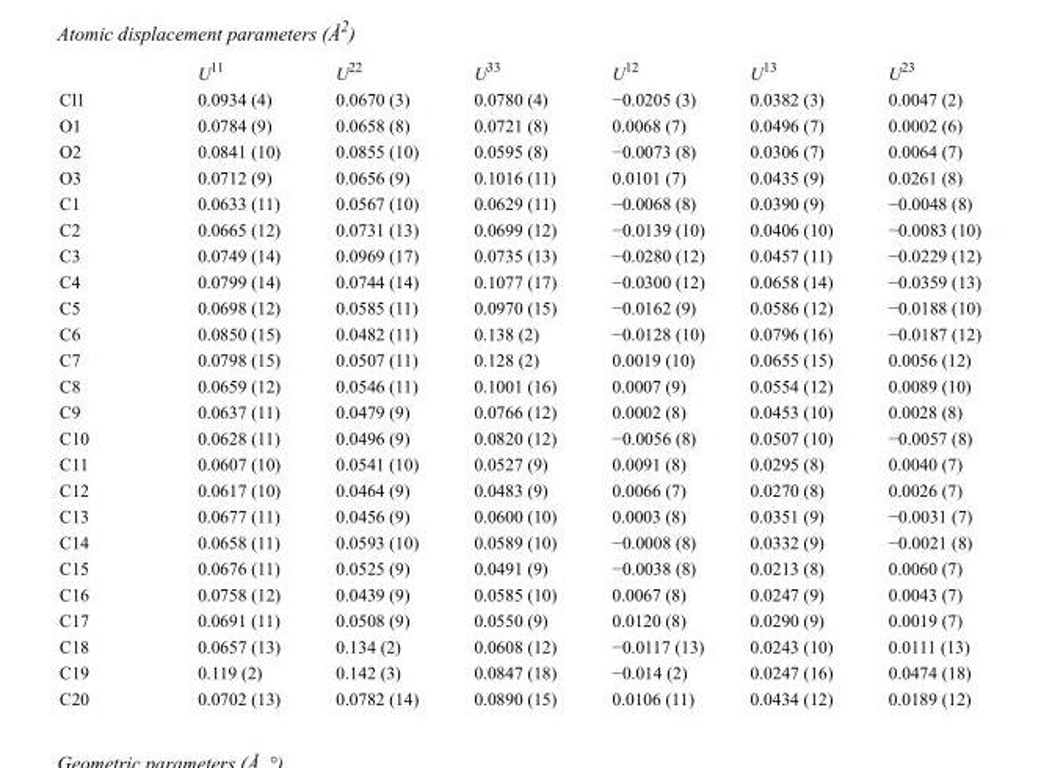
<table><thead><tr><td></td><td>U<sup>11</sup></td><td>U<sup>22</sup></td><td>U<sup>33</sup></td><td>U<sup>12</sup></td><td>U<sup>13</sup></td><td>U<sup>23</sup></td></tr></thead><tbody><tr><td>Cl1</td><td>0.0934 (4)</td><td>0.0670 (3)</td><td>0.0780 (4)</td><td>−0.0205 (3)</td><td>0.0382 (3)</td><td>0.0047 (2)</td></tr><tr><td>O1</td><td>0.0784 (9)</td><td>0.0658 (8)</td><td>0.0721 (8)</td><td>0.0068 (7)</td><td>0.0496 (7)</td><td>0.0002 (6)</td></tr><tr><td>O2</td><td>0.0841 (10)</td><td>0.0855 (10)</td><td>0.0595 (8)</td><td>−0.0073 (8)</td><td>0.0306 (7)</td><td>0.0064 (7)</td></tr><tr><td>O3</td><td>0.0712 (9)</td><td>0.0656 (9)</td><td>0.1016 (11)</td><td>0.0101 (7)</td><td>0.0435 (9)</td><td>0.0261 (8)</td></tr><tr><td>C1</td><td>0.0633 (11)</td><td>0.0567 (10)</td><td>0.0629 (11)</td><td>−0.0068 (8)</td><td>0.0390 (9)</td><td>−0.0048 (8)</td></tr><tr><td>C2</td><td>0.0665 (12)</td><td>0.0731 (13)</td><td>0.0699 (12)</td><td>−0.0139 (10)</td><td>0.0406 (10)</td><td>−0.0083 (10)</td></tr><tr><td>C3</td><td>0.0749 (14)</td><td>0.0969 (17)</td><td>0.0735 (13)</td><td>−0.0280 (12)</td><td>0.0457 (11)</td><td>−0.0229 (12)</td></tr><tr><td>C4</td><td>0.0799 (14)</td><td>0.0744 (14)</td><td>0.1077 (17)</td><td>−0.0300 (12)</td><td>0.0658 (14)</td><td>−0.0359 (13)</td></tr><tr><td>C5</td><td>0.0698 (12)</td><td>0.0585 (11)</td><td>0.0970 (15)</td><td>−0.0162 (9)</td><td>0.0586 (12)</td><td>−0.0188 (10)</td></tr><tr><td>C6</td><td>0.0850 (15)</td><td>0.0482 (11)</td><td>0.138 (2)</td><td>−0.0128 (10)</td><td>0.0796 (16)</td><td>−0.0187 (12)</td></tr><tr><td>C7</td><td>0.0798 (15)</td><td>0.0507 (11)</td><td>0.128 (2)</td><td>0.0019 (10)</td><td>0.0655 (15)</td><td>0.0056 (12)</td></tr><tr><td>C8</td><td>0.0659 (12)</td><td>0.0546 (11)</td><td>0.1001 (16)</td><td>0.0007 (9)</td><td>0.0554 (12)</td><td>0.0089 (10)</td></tr><tr><td>C9</td><td>0.0637 (11)</td><td>0.0479 (9)</td><td>0.0766 (12)</td><td>0.0002 (8)</td><td>0.0453 (10)</td><td>0.0028 (8)</td></tr><tr><td>C10</td><td>0.0628 (11)</td><td>0.0496 (9)</td><td>0.0820 (12)</td><td>−0.0056 (8)</td><td>0.0507 (10)</td><td>−0.0057 (8)</td></tr><tr><td>C11</td><td>0.0607 (10)</td><td>0.0541 (10)</td><td>0.0527 (9)</td><td>0.0091 (8)</td><td>0.0295 (8)</td><td>0.0040 (7)</td></tr><tr><td>C12</td><td>0.0617 (10)</td><td>0.0464 (9)</td><td>0.0483 (9)</td><td>0.0066 (7)</td><td>0.0270 (8)</td><td>0.0026 (7)</td></tr><tr><td>C13</td><td>0.0677 (11)</td><td>0.0456 (9)</td><td>0.0600 (10)</td><td>0.0003 (8)</td><td>0.0351 (9)</td><td>−0.0031 (7)</td></tr><tr><td>C14</td><td>0.0658 (11)</td><td>0.0593 (10)</td><td>0.0589 (10)</td><td>−0.0008 (8)</td><td>0.0332 (9)</td><td>−0.0021 (8)</td></tr><tr><td>C15</td><td>0.0676 (11)</td><td>0.0525 (9)</td><td>0.0491 (9)</td><td>−0.0038 (8)</td><td>0.0213 (8)</td><td>0.0060 (7)</td></tr><tr><td>C16</td><td>0.0758 (12)</td><td>0.0439 (9)</td><td>0.0585 (10)</td><td>0.0067 (8)</td><td>0.0247 (9)</td><td>0.0043 (7)</td></tr><tr><td>C17</td><td>0.0691 (11)</td><td>0.0508 (9)</td><td>0.0550 (9)</td><td>0.0120 (8)</td><td>0.0290 (9)</td><td>0.0019 (7)</td></tr><tr><td>C18</td><td>0.0657 (13)</td><td>0.134 (2)</td><td>0.0608 (12)</td><td>−0.0117 (13)</td><td>0.0243 (10)</td><td>0.0111 (13)</td></tr><tr><td>C19</td><td>0.119 (2)</td><td>0.142 (3)</td><td>0.0847 (18)</td><td>−0.014 (2)</td><td>0.0247 (16)</td><td>0.0474 (18)</td></tr><tr><td>C20</td><td>0.0702 (13)</td><td>0.0782 (14)</td><td>0.0890 (15)</td><td>0.0106 (11)</td><td>0.0434 (12)</td><td>0.0189 (12)</td></tr></tbody></table>